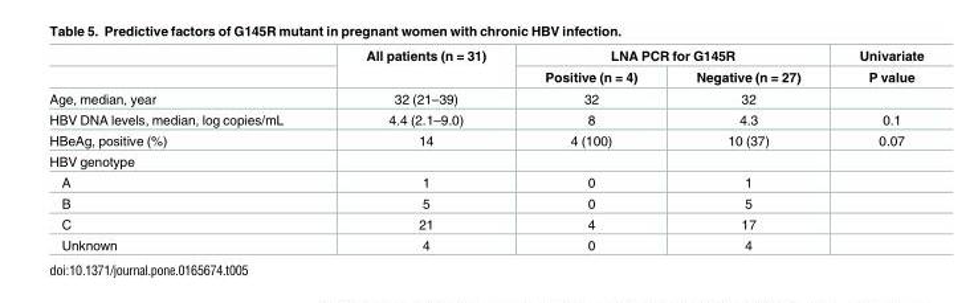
<table><thead><tr><td rowspan="2"></td><td rowspan="2">All patients (n = 31)</td><td colspan="2">LNA PCR for G145R</td><td rowspan="2">Univariate P value</td></tr><tr><td>Positive (n = 4)</td><td>Negative (n = 27)</td></tr></thead><tbody><tr><td>Age, median, year</td><td>32 (21–39)</td><td>32</td><td>32</td><td></td></tr><tr><td>HBV DNA levels, median, log copies/mL</td><td>4.4 (2.1–9.0)</td><td>8</td><td>4.3</td><td>0.1</td></tr><tr><td>HBeAg, positive (%)</td><td>14</td><td>4 (100)</td><td>10 (37)</td><td>0.07</td></tr><tr><td colspan="5">HBV genotype</td></tr><tr><td>A</td><td>1</td><td>0</td><td>1</td><td></td></tr><tr><td>B</td><td>5</td><td>0</td><td>5</td><td></td></tr><tr><td>C</td><td>21</td><td>4</td><td>17</td><td></td></tr><tr><td>Unknown</td><td>4</td><td>0</td><td>4</td><td></td></tr></tbody></table>